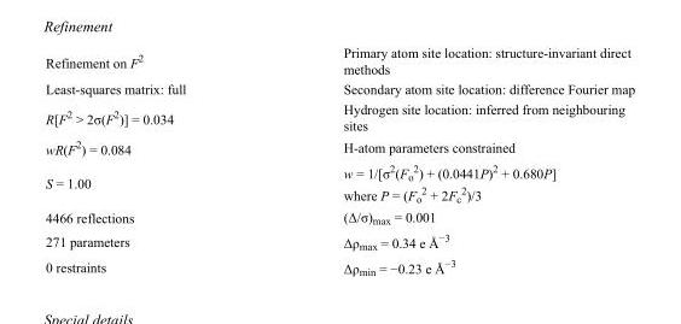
<table><tbody><tr><td>Refinement on F<sup>2</sup></td><td>Primary atom site location: structure-invariant direct methods</td></tr><tr><td>Least-squares matrix: full</td><td>Secondary atom site location: difference Fourier map</td></tr><tr><td>R[F<sup>2</sup> &gt; 2σ(F<sup>2</sup>)] = 0.034</td><td>Hydrogen site location: inferred from neighbouring sites</td></tr><tr><td>wR(F<sup>2</sup>) = 0.084</td><td>H-atom parameters constrained</td></tr><tr><td>S = 1.00</td><td>w = 1/[σ<sup>2</sup>(F<sub>o</sub> <sup>2</sup>) + (0.0441P)<sup>2</sup> + 0.680P] where P = (F<sub>o</sub> <sup>2</sup> + 2F<sub>c</sub> <sup>2</sup>)/3</td></tr><tr><td>4466 reflections</td><td>(Δ/σ)<sub>max</sub> = 0.001</td></tr><tr><td>271 parameters</td><td>Δρ<sub>max</sub> = 0.34 e Å<sup>−3</sup></td></tr><tr><td>0 restraints</td><td>Δρ<sub>min</sub> = −0.23 e Å<sup>−3</sup></td></tr></tbody></table>